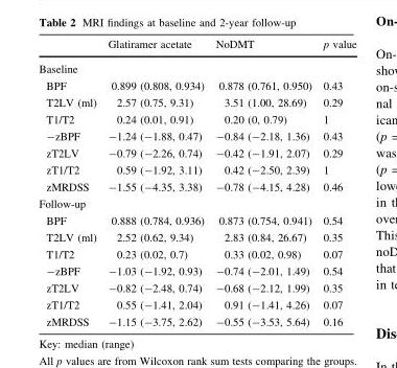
<table><thead><tr><td></td><td>Glatiramer acetate</td><td>NoDMT</td><td>p value</td></tr></thead><tbody><tr><td colspan="4">Baseline</td></tr><tr><td>BPF</td><td>0.899 (0.808, 0.934)</td><td>0.878 (0.761, 0.950)</td><td>0.43</td></tr><tr><td>T2LV (ml)</td><td>2.57 (0.75, 9.31)</td><td>3.51 (1.00, 28.69)</td><td>0.29</td></tr><tr><td>T1/T2</td><td>0.24 (0.01, 0.91)</td><td>0.20 (0, 0.79)</td><td>1</td></tr><tr><td>-zBPF</td><td>-1.24 (-1.88, 0.47)</td><td>-0.84 (-2.18, 1.36)</td><td>0.43</td></tr><tr><td>zT2LV</td><td>-0.79 (-2.26, 0.74)</td><td>-0.42 (-1.91, 2.07)</td><td>0.29</td></tr><tr><td>zT1/T2</td><td>0.59 (-1.92, 3.11)</td><td>0.42 (-2.50, 2.39)</td><td>1</td></tr><tr><td>zMRDSS</td><td>-1.55 (-4.35, 3.38)</td><td>-0.78 (-4.15, 4.28)</td><td>0.46</td></tr><tr><td colspan="4">Follow-up</td></tr><tr><td>BPF</td><td>0.888 (0.784, 0.936)</td><td>0.873 (0.754, 0.941)</td><td>0.54</td></tr><tr><td>T2LV (ml)</td><td>2.52 (0.62, 9.34)</td><td>2.83 (0.84, 26.67)</td><td>0.35</td></tr><tr><td>T1/T2</td><td>0.23 (0.02, 0.7)</td><td>0.33 (0.02, 0.98)</td><td>0.07</td></tr><tr><td>-zBPF</td><td>-1.03 (-1.92, 0.93)</td><td>-0.74 (-2.01, 1.49)</td><td>0.54</td></tr><tr><td>zT2LV</td><td>-0.82 (-2.48, 0.74)</td><td>-0.68 (-2.12, 1.99)</td><td>0.35</td></tr><tr><td>zT1/T2</td><td>0.55 (-1.41, 2.04)</td><td>0.91 (-1.41, 4.26)</td><td>0.07</td></tr><tr><td>zMRDSS</td><td>-1.15 (-3.75, 2.62)</td><td>-0.55 (-3.53, 5.64)</td><td>0.16</td></tr></tbody></table>